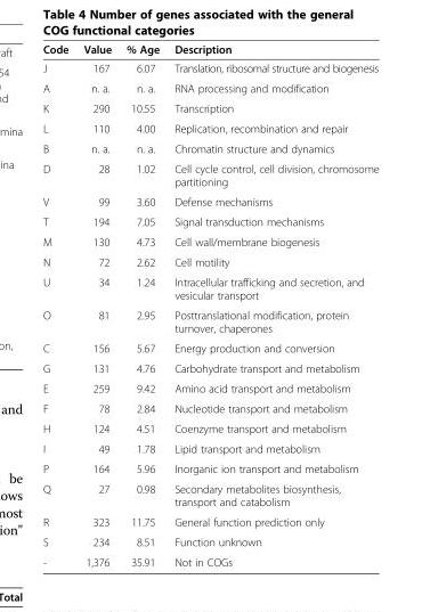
<table><thead><tr><td>Code</td><td>Value</td><td>% Age</td><td>Description</td></tr></thead><tbody><tr><td>J</td><td>167</td><td>6.07</td><td>Translation, ribosomal structure and biogenesis</td></tr><tr><td>A</td><td>n. a.</td><td>n. a.</td><td>RNA processing and modification</td></tr><tr><td>K</td><td>290</td><td>10.55</td><td>Transcription</td></tr><tr><td>L</td><td>110</td><td>4.00</td><td>Replication, recombination and repair</td></tr><tr><td>B</td><td>n. a.</td><td>n. a.</td><td>Chromatin structure and dynamics</td></tr><tr><td>D</td><td>28</td><td>1.02</td><td>Cell cycle control, cell division, chromosome partitioning</td></tr><tr><td>V</td><td>99</td><td>3.60</td><td>Defense mechanisms</td></tr><tr><td>T</td><td>194</td><td>7.05</td><td>Signal transduction mechanisms</td></tr><tr><td>M</td><td>130</td><td>4.73</td><td>Cell wall/membrane biogenesis</td></tr><tr><td>N</td><td>72</td><td>2.62</td><td>Cell motility</td></tr><tr><td>U</td><td>34</td><td>1.24</td><td>Intracellular trafficking and secretion, and vesicular transport</td></tr><tr><td>O</td><td>81</td><td>2.95</td><td>Posttranslational modification, protein turnover, chaperones</td></tr><tr><td>C</td><td>156</td><td>5.67</td><td>Energy production and conversion</td></tr><tr><td>G</td><td>131</td><td>4.76</td><td>Carbohydrate transport and metabolism</td></tr><tr><td>E</td><td>259</td><td>9.42</td><td>Amino acid transport and metabolism</td></tr><tr><td>F</td><td>78</td><td>2.84</td><td>Nucleotide transport and metabolism</td></tr><tr><td>H</td><td>124</td><td>4.51</td><td>Coenzyme transport and metabolism</td></tr><tr><td>I</td><td>49</td><td>1.78</td><td>Lipid transport and metabolism</td></tr><tr><td>P</td><td>164</td><td>5.96</td><td>Inorganic ion transport and metabolism</td></tr><tr><td>Q</td><td>27</td><td>0.98</td><td>Secondary metabolites biosynthesis, transport and catabolism</td></tr><tr><td>R</td><td>323</td><td>11.75</td><td>General function prediction only</td></tr><tr><td>S</td><td>234</td><td>8.51</td><td>Function unknown</td></tr><tr><td>-</td><td>1,376</td><td>35.91</td><td>Not in COGs</td></tr></tbody></table>